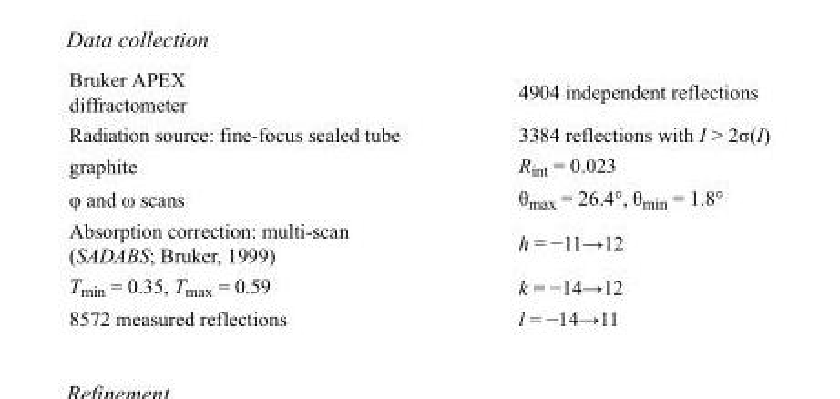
<table><tbody><tr><td>Bruker APEX diffractometer</td><td>4904 independent reflections</td></tr><tr><td>Radiation source: fine-focus sealed tube</td><td>3384 reflections with I &gt; 2σ(I)</td></tr><tr><td>graphite</td><td>R<sub>int</sub> = 0.023</td></tr><tr><td>φ and ω scans</td><td>θ<sub>max</sub> = 26.4°, θ<sub>min</sub> = 1.8°</td></tr><tr><td>Absorption correction: multi-scan (SADABS; Bruker, 1999)</td><td>h = −11→12</td></tr><tr><td>T<sub>min</sub> = 0.35, T<sub>max</sub> = 0.59</td><td>k = −14→12</td></tr><tr><td>8572 measured reflections</td><td>l = −14→11</td></tr></tbody></table>